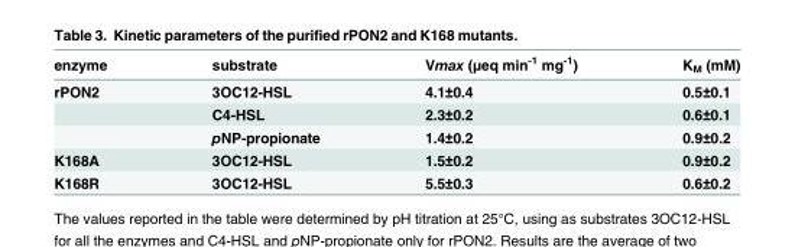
<table><thead><tr><td>enzyme</td><td>substrate</td><td>Vmax (μeq min<sup>-1</sup> mg<sup>-1</sup>)</td><td>K<sub>M</sub> (mM)</td></tr></thead><tbody><tr><td rowspan="3">rPON2</td><td>3OC12-HSL</td><td>4.1±0.4</td><td>0.5±0.1</td></tr><tr><td>C4-HSL</td><td>2.3±0.2</td><td>0.6±0.1</td></tr><tr><td>pNP-propionate</td><td>1.4±0.2</td><td>0.9±0.2</td></tr><tr><td>K168A</td><td>3OC12-HSL</td><td>1.5±0.2</td><td>0.9±0.2</td></tr><tr><td>K168R</td><td>3OC12-HSL</td><td>5.5±0.3</td><td>0.6±0.2</td></tr></tbody></table>